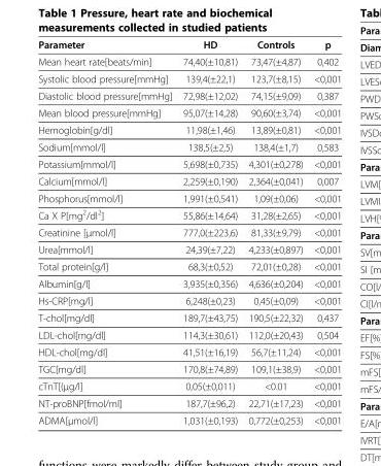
<table><thead><tr><td>Parameter</td><td>HD</td><td>Controls</td><td>p</td></tr></thead><tbody><tr><td>Mean heart rate[beats/min]</td><td>74,40(±10,81)</td><td>73,47(±4,87)</td><td>0,402</td></tr><tr><td>Systolic blood pressure[mmHg]</td><td>139,4(±22,1)</td><td>123,7(±8,15)</td><td>&lt;0,001</td></tr><tr><td>Diastolic blood pressure[mmHg]</td><td>72,98(±12,02)</td><td>74,15(±9,09)</td><td>0,387</td></tr><tr><td>Mean blood pressure[mmHg]</td><td>95,07(±14,28)</td><td>90,60(±3,74)</td><td>&lt;0,001</td></tr><tr><td>Hemoglobin[g/dl]</td><td>11,98(±1,46)</td><td>13,89(±0,81)</td><td>&lt;0,001</td></tr><tr><td>Sodium[mmol/l]</td><td>138,5(±2,5)</td><td>138,4(±1,7)</td><td>0,583</td></tr><tr><td>Potassium[mmol/l]</td><td>5,698(±0,735)</td><td>4,301(±0,278)</td><td>&lt;0,001</td></tr><tr><td>Calcium[mmol/l]</td><td>2,259(±0,190)</td><td>2,364(±0,041)</td><td>0,007</td></tr><tr><td>Phosphorus[mmol/l]</td><td>1,991(±0,541)</td><td>1,09(±0,06)</td><td>&lt;0,001</td></tr><tr><td>Ca X P[mg<sup>2</sup>/dl<sup>2</sup>]</td><td>55,86(±14,64)</td><td>31,28(±2,65)</td><td>&lt;0,001</td></tr><tr><td>Creatinine [μmol/l]</td><td>777,0(±223,6)</td><td>81,33(±9,79)</td><td>&lt;0,001</td></tr><tr><td>Urea[mmol/l]</td><td>24,39(±7,22)</td><td>4,233(±0,897)</td><td>&lt;0,001</td></tr><tr><td>Total protein[g/l]</td><td>68,3(±0,52)</td><td>72,01(±0,28)</td><td>&lt;0,001</td></tr><tr><td>Albumin[g/l]</td><td>3,935(±0,356)</td><td>4,636(±0,204)</td><td>&lt;0,001</td></tr><tr><td>Hs-CRP[mg/l]</td><td>6,248(±0,23)</td><td>0,45(±0,09)</td><td>&lt;0,001</td></tr><tr><td>T-chol[mg/dl]</td><td>189,7(±43,75)</td><td>190,5(±22,32)</td><td>0,437</td></tr><tr><td>LDL-chol[mg/dl]</td><td>114,3(±30,61)</td><td>112,0(±20,43)</td><td>0,504</td></tr><tr><td>HDL-chol[mg/dl]</td><td>41,51(±16,19)</td><td>56,7(±11,24)</td><td>&lt;0,001</td></tr><tr><td>TGC[mg/dl]</td><td>170,8(±74,89)</td><td>109,1(±38,9)</td><td>&lt;0,001</td></tr><tr><td>cTnT[(μg/l]</td><td>0,05(±0,011)</td><td>&lt;0.01</td><td>&lt;0,001</td></tr><tr><td>NT-proBNP[fmol/ml]</td><td>187,7(±96,2)</td><td>22,71(±17,23)</td><td>&lt;0,001</td></tr><tr><td>ADMA[μmol/l]</td><td>1,031(±0,193)</td><td>0,772(±0,253)</td><td>&lt;0,001</td></tr></tbody></table>